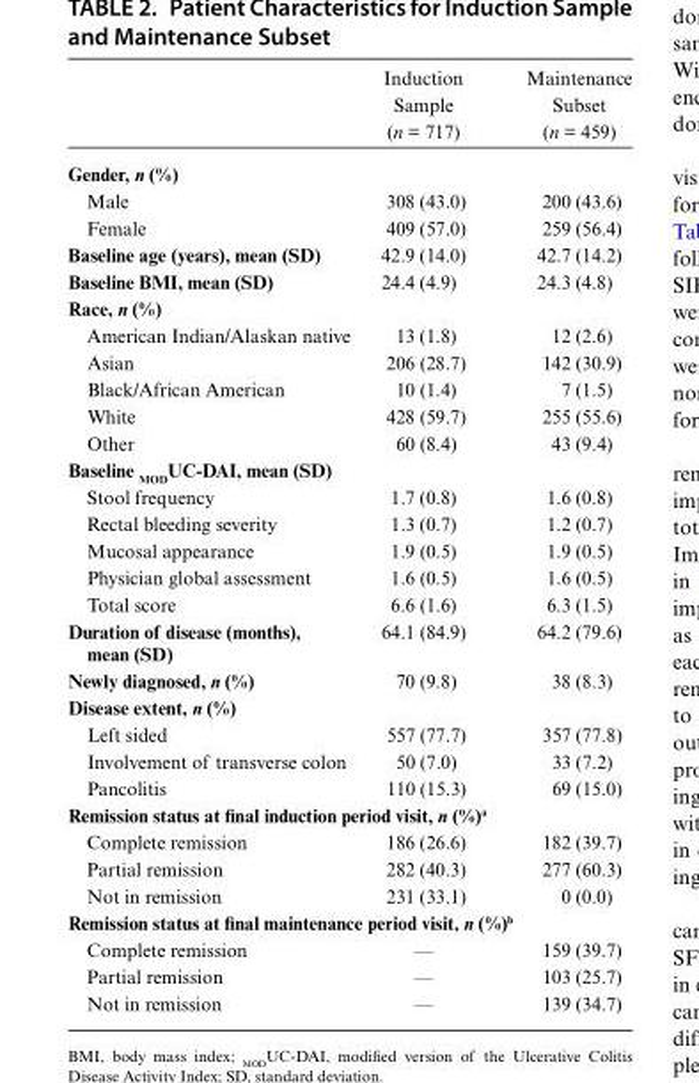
<table><thead><tr><td></td><td>Induction Sample (n = 717)</td><td>Maintenance Subset (n = 459)</td></tr></thead><tbody><tr><td colspan="3">Gender, n (%)</td></tr><tr><td>Male</td><td>308 (43.0)</td><td>200 (43.6)</td></tr><tr><td>Female</td><td>409 (57.0)</td><td>259 (56.4)</td></tr><tr><td>Baseline age (years), mean (SD)</td><td>42.9 (14.0)</td><td>42.7 (14.2)</td></tr><tr><td>Baseline BMI, mean (SD)</td><td>24.4 (4.9)</td><td>24.3 (4.8)</td></tr><tr><td colspan="3">Race, n (%)</td></tr><tr><td>American Indian/Alaskan native</td><td>13 (1.8)</td><td>12 (2.6)</td></tr><tr><td>Asian</td><td>206 (28.7)</td><td>142 (30.9)</td></tr><tr><td>Black/African American</td><td>10 (1.4)</td><td>7 (1.5)</td></tr><tr><td>White</td><td>428 (59.7)</td><td>255 (55.6)</td></tr><tr><td>Other</td><td>60 (8.4)</td><td>43 (9.4)</td></tr><tr><td colspan="3">Baseline <sub>MOD</sub>UC-DAI, mean (SD)</td></tr><tr><td>Stool frequency</td><td>1.7 (0.8)</td><td>1.6 (0.8)</td></tr><tr><td>Rectal bleeding severity</td><td>1.3 (0.7)</td><td>1.2 (0.7)</td></tr><tr><td>Mucosal appearance</td><td>1.9 (0.5)</td><td>1.9 (0.5)</td></tr><tr><td>Physician global assessment</td><td>1.6 (0.5)</td><td>1.6 (0.5)</td></tr><tr><td>Total score</td><td>6.6 (1.6)</td><td>6.3 (1.5)</td></tr><tr><td>Duration of disease (months), mean (SD)</td><td>64.1 (84.9)</td><td>64.2 (79.6)</td></tr><tr><td>Newly diagnosed, n (%)</td><td>70 (9.8)</td><td>38 (8.3)</td></tr><tr><td colspan="3">Disease extent, n (%)</td></tr><tr><td>Left sided</td><td>557 (77.7)</td><td>357 (77.8)</td></tr><tr><td>Involvement of transverse colon</td><td>50 (7.0)</td><td>33 (7.2)</td></tr><tr><td>Pancolitis</td><td>110 (15.3)</td><td>69 (15.0)</td></tr><tr><td colspan="3">Remission status at final induction period visit, n (%)<sup>a</sup></td></tr><tr><td>Complete remission</td><td>186 (26.6)</td><td>182 (39.7)</td></tr><tr><td>Partial remission</td><td>282 (40.3)</td><td>277 (60.3)</td></tr><tr><td>Not in remission</td><td>231 (33.1)</td><td>0 (0.0)</td></tr><tr><td colspan="3">Remission status at final maintenance period visit, n (%)<sup>b</sup></td></tr><tr><td>Complete remission</td><td>—</td><td>159 (39.7)</td></tr><tr><td>Partial remission</td><td>—</td><td>103 (25.7)</td></tr><tr><td>Not in remission</td><td>—</td><td>139 (34.7)</td></tr></tbody></table>